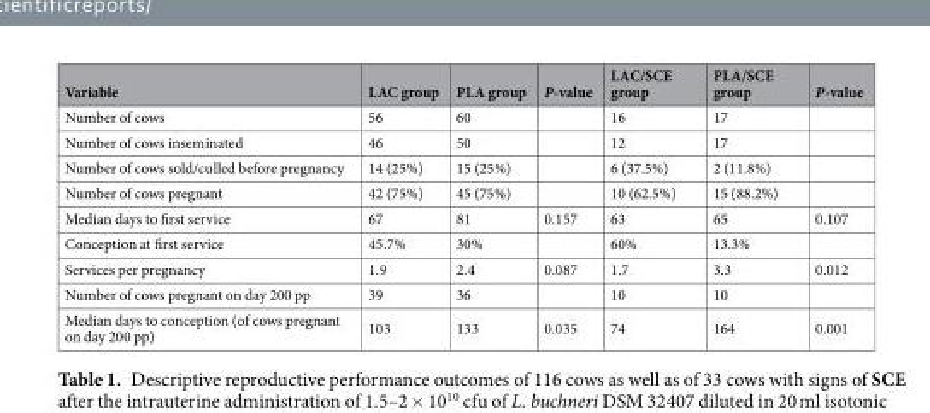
<table><thead><tr><td>Variable</td><td>LAC group</td><td>PLA group</td><td>P-value</td><td>LAC/SCE group</td><td>PLA/SCE group</td><td>P-value</td></tr></thead><tbody><tr><td>Number of cows</td><td>56</td><td>60</td><td></td><td>16</td><td>17</td><td></td></tr><tr><td>Number of cows inseminated</td><td>46</td><td>50</td><td></td><td>12</td><td>17</td><td></td></tr><tr><td>Number of cows sold/culled before pregnancy</td><td>14 (25%)</td><td>15 (25%)</td><td></td><td>6 (37.5%)</td><td>2 (11.8%)</td><td></td></tr><tr><td>Number of cows pregnant</td><td>42 (75%)</td><td>45 (75%)</td><td></td><td>10 (62.5%)</td><td>15 (88.2%)</td><td></td></tr><tr><td>Median days to first service</td><td>67</td><td>81</td><td>0.157</td><td>63</td><td>65</td><td>0.107</td></tr><tr><td>Conception at first service</td><td>45.7%</td><td>30%</td><td></td><td>60%</td><td>13.3%</td><td></td></tr><tr><td>Services per pregnancy</td><td>1.9</td><td>2.4</td><td>0.087</td><td>1.7</td><td>3.3</td><td>0.012</td></tr><tr><td>Number of cows pregnant on day 200 pp</td><td>39</td><td>36</td><td></td><td>10</td><td>10</td><td></td></tr><tr><td>Median days to conception (of cows pregnant on day 200 pp)</td><td>103</td><td>133</td><td>0.035</td><td>74</td><td>164</td><td>0.001</td></tr></tbody></table>